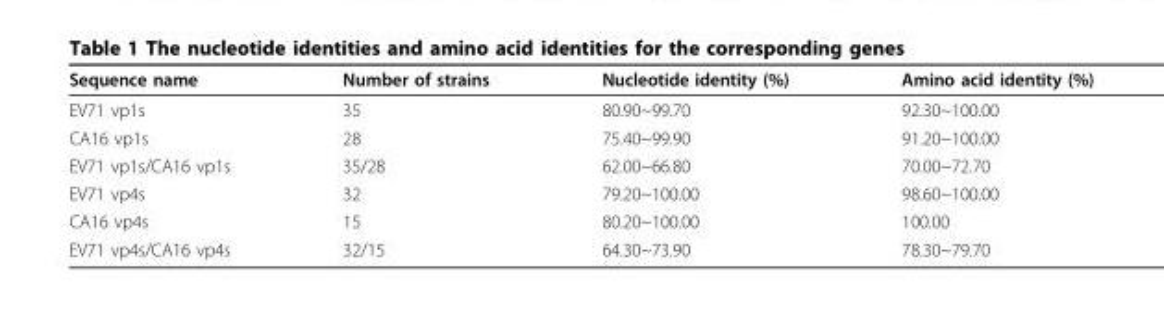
<table><thead><tr><td>Sequence name</td><td>Number of strains</td><td>Nucleotide identity (%)</td><td>Amino acid identity (%)</td></tr></thead><tbody><tr><td>EV71 vp1s</td><td>35</td><td>80.90~99.70</td><td>92.30~100.00</td></tr><tr><td>CA16 vp1s</td><td>28</td><td>75.40~99.90</td><td>91.20~100.00</td></tr><tr><td>EV71 vp1s/CA16 vp1s</td><td>35/28</td><td>62.00~66.80</td><td>70.00~72.70</td></tr><tr><td>EV71 vp4s</td><td>32</td><td>79.20~100.00</td><td>98.60~100.00</td></tr><tr><td>CA16 vp4s</td><td>15</td><td>80.20~100.00</td><td>100.00</td></tr><tr><td>EV71 vp4s/CA16 vp4s</td><td>32/15</td><td>64.30~73.90</td><td>78.30~79.70</td></tr></tbody></table>